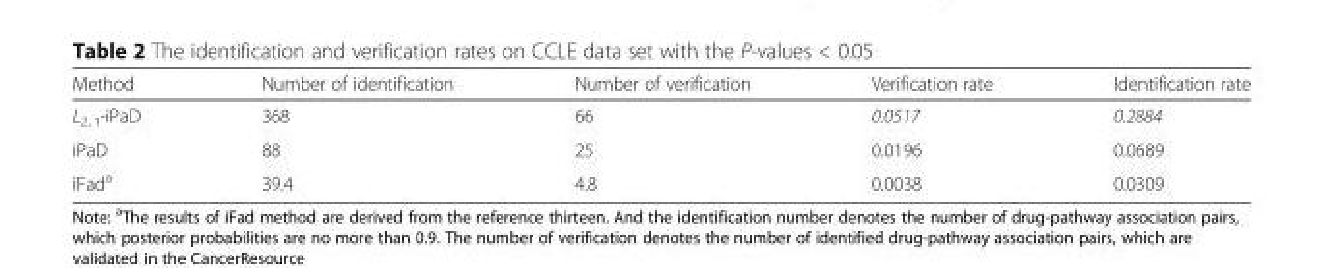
<table><thead><tr><td>Method</td><td>Number of identification</td><td>Number of verification</td><td>Verification rate</td><td>Identification rate</td></tr></thead><tbody><tr><td>L<sub>2, 1</sub>-iPaD</td><td>368</td><td>66</td><td>0.0517</td><td>0.2884</td></tr><tr><td>iPaD</td><td>88</td><td>25</td><td>0.0196</td><td>0.0689</td></tr><tr><td>iFad<sup>a</sup></td><td>39.4</td><td>4.8</td><td>0.0038</td><td>0.0309</td></tr></tbody></table>